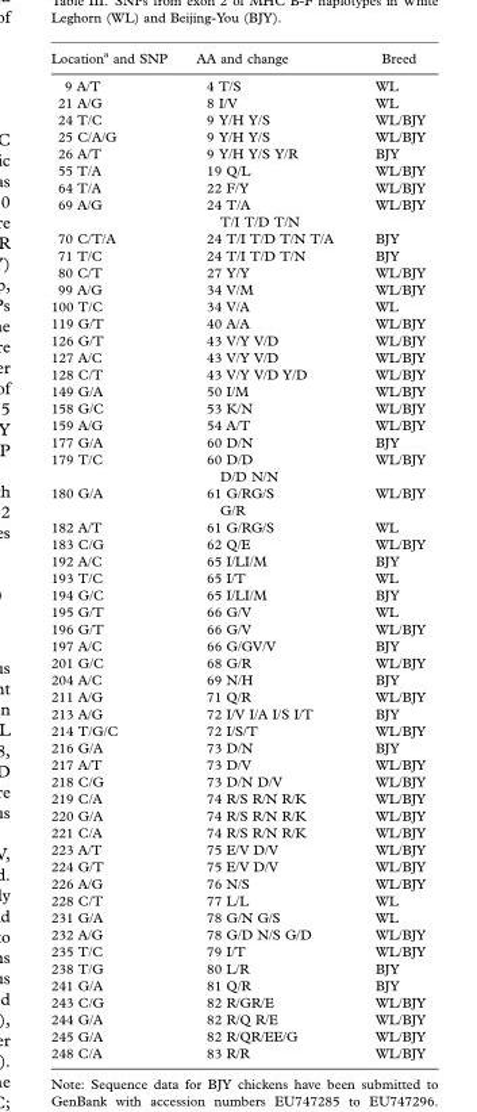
<table><thead><tr><td>Location<sup>a</sup> and SNP</td><td>AA and change</td><td>Breed</td></tr></thead><tbody><tr><td>9 A/T</td><td>4 T/S</td><td>WL</td></tr><tr><td>21 A/G</td><td>8 I/V</td><td>WL</td></tr><tr><td>24 T/C</td><td>9 Y/H Y/S</td><td>WL/BJY</td></tr><tr><td>25 C/A/G</td><td>9 Y/H Y/S</td><td>WL/BJY</td></tr><tr><td>26 A/T</td><td>9 Y/H Y/S Y/R</td><td>BJY</td></tr><tr><td>55 T/A</td><td>19 Q/L</td><td>WL/BJY</td></tr><tr><td>64 T/A</td><td>22 F/Y</td><td>WL/BJY</td></tr><tr><td>69 A/G</td><td>24 T/A T/I T/D T/N</td><td>WL/BJY</td></tr><tr><td>70 C/T/A</td><td>24 T/I T/D T/N T/A</td><td>BJY</td></tr><tr><td>71 T/C</td><td>24 T/I T/D T/N</td><td>BJY</td></tr><tr><td>80 C/T</td><td>27 Y/Y</td><td>WL/BJY</td></tr><tr><td>99 A/G</td><td>34 V/M</td><td>WL/BJY</td></tr><tr><td>100 T/C</td><td>34 V/A</td><td>WL</td></tr><tr><td>119 G/T</td><td>40 A/A</td><td>WL/BJY</td></tr><tr><td>126 G/T</td><td>43 V/Y V/D</td><td>WL/BJY</td></tr><tr><td>127 A/C</td><td>43 V/Y V/D</td><td>WL/BJY</td></tr><tr><td>128 C/T</td><td>43 V/Y V/D Y/D</td><td>WL/BJY</td></tr><tr><td>149 G/A</td><td>50 I/M</td><td>WL/BJY</td></tr><tr><td>158 G/C</td><td>53 K/N</td><td>WL/BJY</td></tr><tr><td>159 A/G</td><td>54 A/T</td><td>WL/BJY</td></tr><tr><td>177 G/A</td><td>60 D/N</td><td>BJY</td></tr><tr><td>179 T/C</td><td>60 D/D D/D N/N</td><td>WL/BJY</td></tr><tr><td>180 G/A</td><td>61 G/RG/S G/R</td><td>WL/BJY</td></tr><tr><td>182 A/T</td><td>61 G/RG/S</td><td>WL</td></tr><tr><td>183 C/G</td><td>62 Q/E</td><td>WL/BJY</td></tr><tr><td>192 A/C</td><td>65 I/LI/M</td><td>BJY</td></tr><tr><td>193 T/C</td><td>65 I/T</td><td>WL</td></tr><tr><td>194 G/C</td><td>65 I/LI/M</td><td>BJY</td></tr><tr><td>195 G/T</td><td>66 G/V</td><td>WL</td></tr><tr><td>196 G/T</td><td>66 G/V</td><td>WL/BJY</td></tr><tr><td>197 A/C</td><td>66 G/GV/V</td><td>BJY</td></tr><tr><td>201 G/C</td><td>68 G/R</td><td>WL/BJY</td></tr><tr><td>204 A/C</td><td>69 N/H</td><td>BJY</td></tr><tr><td>211 A/G</td><td>71 Q/R</td><td>WL/BJY</td></tr><tr><td>213 A/G</td><td>72 I/V I/A I/S I/T</td><td>BJY</td></tr><tr><td>214 T/G/C</td><td>72 I/S/T</td><td>WL/BJY</td></tr><tr><td>216 G/A</td><td>73 D/N</td><td>BJY</td></tr><tr><td>217 A/T</td><td>73 D/V</td><td>WL/BJY</td></tr><tr><td>218 C/G</td><td>73 D/N D/V</td><td>WL/BJY</td></tr><tr><td>219 C/A</td><td>74 R/S R/N R/K</td><td>WL/BJY</td></tr><tr><td>220 G/A</td><td>74 R/S R/N R/K</td><td>WL/BJY</td></tr><tr><td>221 C/A</td><td>74 R/S R/N R/K</td><td>WL/BJY</td></tr><tr><td>223 A/T</td><td>75 E/V D/V</td><td>WL/BJY</td></tr><tr><td>224 G/T</td><td>75 E/V D/V</td><td>WL/BJY</td></tr><tr><td>226 A/G</td><td>76 N/S</td><td>WL/BJY</td></tr><tr><td>228 C/T</td><td>77 L/L</td><td>WL</td></tr><tr><td>231 G/A</td><td>78 G/N G/S</td><td>WL</td></tr><tr><td>232 A/G</td><td>78 G/D N/S G/D</td><td>WL/BJY</td></tr><tr><td>235 T/C</td><td>79 I/T</td><td>WL/BJY</td></tr><tr><td>238 T/G</td><td>80 L/R</td><td>BJY</td></tr><tr><td>241 G/A</td><td>81 Q/R</td><td>BJY</td></tr><tr><td>243 C/G</td><td>82 R/GR/E</td><td>WL/BJY</td></tr><tr><td>244 G/A</td><td>82 R/Q R/E</td><td>WL/BJY</td></tr><tr><td>245 G/A</td><td>82 R/QR/EE/G</td><td>WL/BJY</td></tr><tr><td>248 C/A</td><td>83 R/R</td><td>WL/BJY</td></tr></tbody></table>